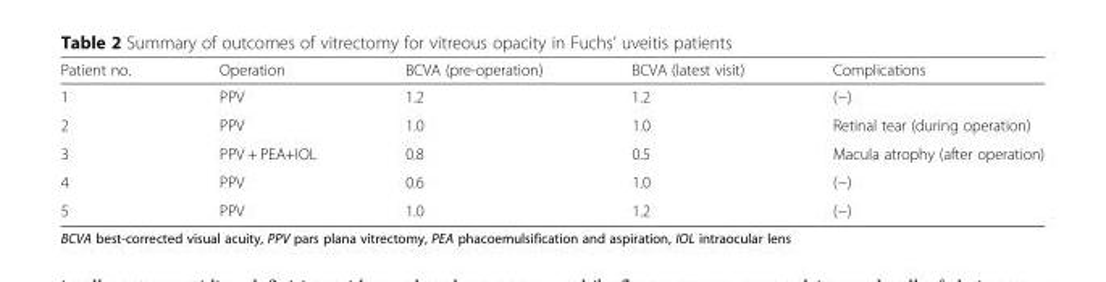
<table><thead><tr><td>Patient no.</td><td>Operation</td><td>BCVA (pre-operation)</td><td>BCVA (latest visit)</td><td>Complications</td></tr></thead><tbody><tr><td>1</td><td>PPV</td><td>1.2</td><td>1.2</td><td>(−)</td></tr><tr><td>2</td><td>PPV</td><td>1.0</td><td>1.0</td><td>Retinal tear (during operation)</td></tr><tr><td>3</td><td>PPV + PEA+IOL</td><td>0.8</td><td>0.5</td><td>Macula atrophy (after operation)</td></tr><tr><td>4</td><td>PPV</td><td>0.6</td><td>1.0</td><td>(−)</td></tr><tr><td>5</td><td>PPV</td><td>1.0</td><td>1.2</td><td>(−)</td></tr></tbody></table>